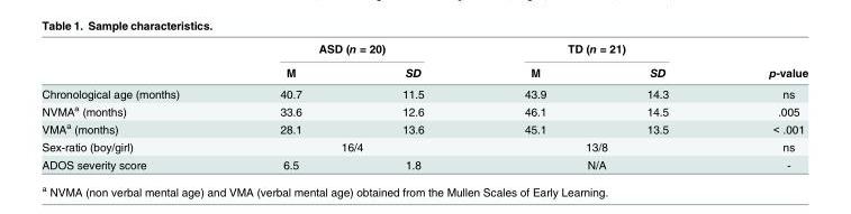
<table><thead><tr><td rowspan="2"></td><td colspan="2">ASD (n = 20)</td><td colspan="2">TD (n = 21)</td><td rowspan="2">p-value</td></tr><tr><td>M</td><td>SD</td><td>M</td><td>SD</td></tr></thead><tbody><tr><td>Chronological age (months)</td><td>40.7</td><td>11.5</td><td>43.9</td><td>14.3</td><td>ns</td></tr><tr><td>NVMA<sup>a</sup> (months)</td><td>33.6</td><td>12.6</td><td>46.1</td><td>14.5</td><td>.005</td></tr><tr><td>VMA<sup>a</sup> (months)</td><td>28.1</td><td>13.6</td><td>45.1</td><td>13.5</td><td>&lt; .001</td></tr><tr><td>Sex-ratio (boy/girl)</td><td colspan="2">16/4</td><td colspan="2">13/8</td><td>ns</td></tr><tr><td>ADOS severity score</td><td>6.5</td><td>1.8</td><td colspan="2">N/A</td><td>-</td></tr></tbody></table>